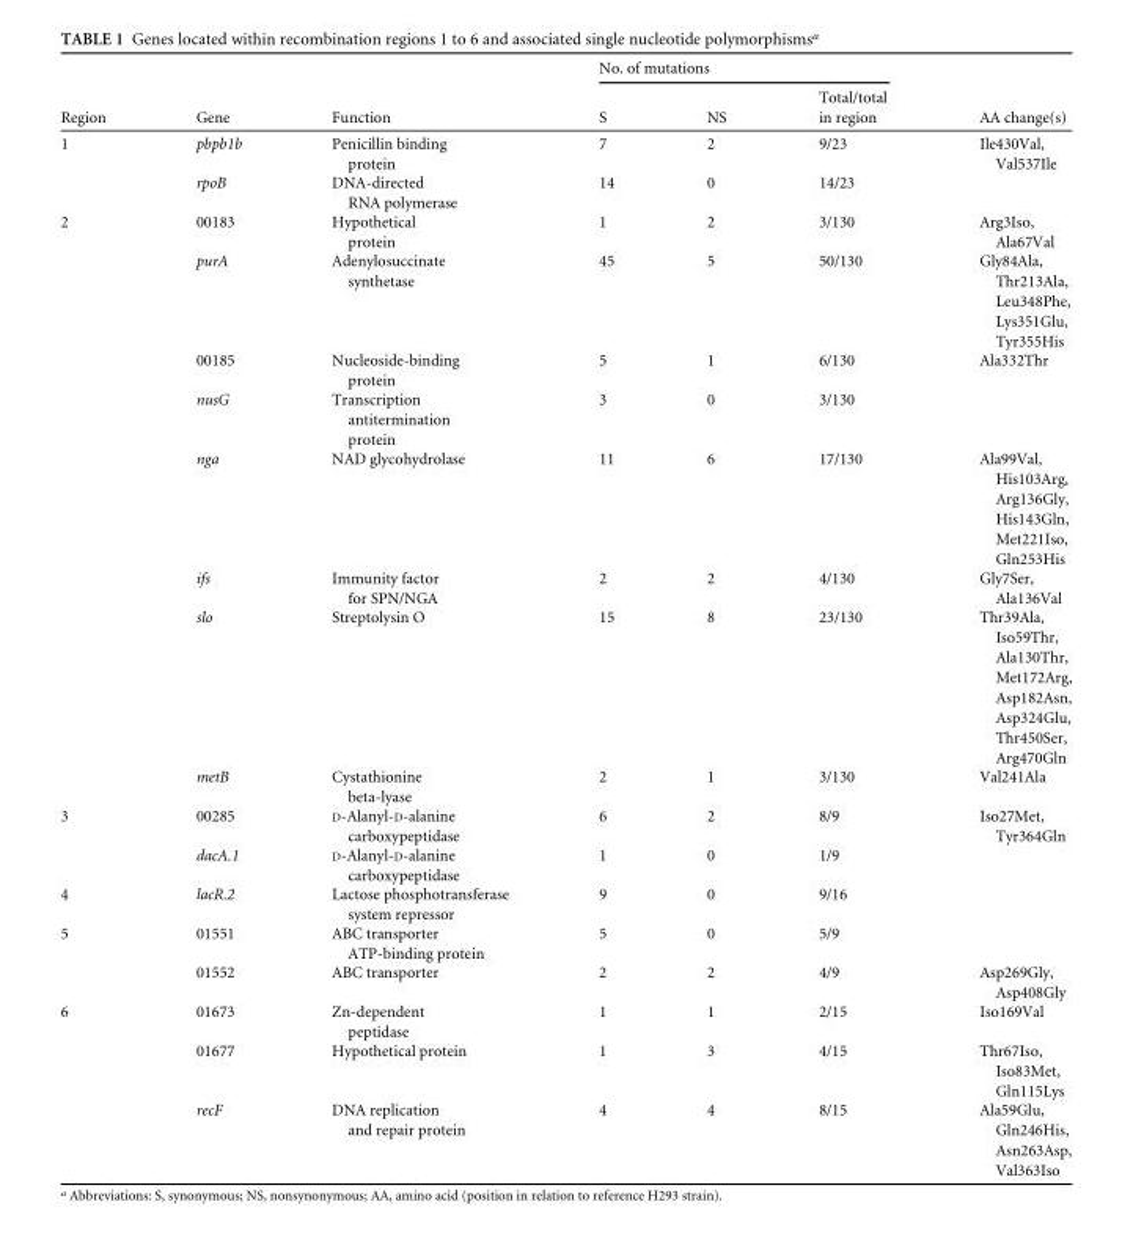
<table><thead><tr><td rowspan="2">Region</td><td rowspan="2">Gene</td><td rowspan="2">Function</td><td colspan="3">No. of mutations</td><td rowspan="2">AA change(s)</td></tr><tr><td>S</td><td>NS</td><td>Total/total in region</td></tr></thead><tbody><tr><td rowspan="2">1</td><td>pbpb1b</td><td>Penicillin binding protein</td><td>7</td><td>2</td><td>9/23</td><td>Ile430Val, Val537Ile</td></tr><tr><td>rpoB</td><td>DNA-directed RNA polymerase</td><td>14</td><td>0</td><td>14/23</td><td></td></tr><tr><td rowspan="8">2</td><td>00183</td><td>Hypothetical protein</td><td>1</td><td>2</td><td>3/130</td><td>Arg3Iso, Ala67Val</td></tr><tr><td>purA</td><td>Adenylosuccinate synthetase</td><td>45</td><td>5</td><td>50/130</td><td>Gly84Ala, Thr213Ala, Leu348Phe, Lys351Glu, Tyr355His</td></tr><tr><td>00185</td><td>Nucleoside-binding protein</td><td>5</td><td>1</td><td>6/130</td><td>Ala332Thr</td></tr><tr><td>nusG</td><td>Transcription antitermination protein</td><td>3</td><td>0</td><td>3/130</td><td></td></tr><tr><td>nga</td><td>NAD glycohydrolase</td><td>11</td><td>6</td><td>17/130</td><td>Ala99Val, His103Arg, Arg136Gly, His143Gln, Met221Iso, Gln253His</td></tr><tr><td>ifs</td><td>Immunity factor for SPN/NGA</td><td>2</td><td>2</td><td>4/130</td><td>Gly7Ser, Ala136Val</td></tr><tr><td>slo</td><td>Streptolysin O</td><td>15</td><td>8</td><td>23/130</td><td>Thr39Ala, Iso59Thr, Ala130Thr, Met172Arg, Asp182Asn, Asp324Glu, Thr450Ser, Arg470Gln</td></tr><tr><td>metB</td><td>Cystathionine beta-lyase</td><td>2</td><td>1</td><td>3/130</td><td>Val241Ala</td></tr><tr><td rowspan="2">3</td><td>00285</td><td>D-Alanyl-D-alanine carboxypeptidase</td><td>6</td><td>2</td><td>8/9</td><td>Iso27Met, Tyr364Gln</td></tr><tr><td>dacA.1</td><td>D-Alanyl-D-alanine carboxypeptidase</td><td>1</td><td>0</td><td>1/9</td><td></td></tr><tr><td>4</td><td>lacR.2</td><td>Lactose phosphotransferase system repressor</td><td>9</td><td>0</td><td>9/16</td><td></td></tr><tr><td rowspan="2">5</td><td>01551</td><td>ABC transporter ATP-binding protein</td><td>5</td><td>0</td><td>5/9</td><td></td></tr><tr><td>01552</td><td>ABC transporter</td><td>2</td><td>2</td><td>4/9</td><td>Asp269Gly, Asp408Gly</td></tr><tr><td rowspan="3">6</td><td>01673</td><td>Zn-dependent peptidase</td><td>1</td><td>1</td><td>2/15</td><td>Iso169Val</td></tr><tr><td>01677</td><td>Hypothetical protein</td><td>1</td><td>3</td><td>4/15</td><td>Thr67Iso, Iso83Met, Gln115Lys</td></tr><tr><td>recF</td><td>DNA replication and repair protein</td><td>4</td><td>4</td><td>8/15</td><td>Ala59Glu, Gln246His, Asn263Asp, Val363Iso</td></tr></tbody></table>